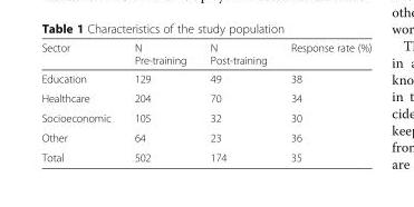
<table><thead><tr><td>Sector</td><td>N Pre-training</td><td>N Post-training</td><td>Response rate (%)</td></tr></thead><tbody><tr><td>Education</td><td>129</td><td>49</td><td>38</td></tr><tr><td>Healthcare</td><td>204</td><td>70</td><td>34</td></tr><tr><td>Socioeconomic</td><td>105</td><td>32</td><td>30</td></tr><tr><td>Other</td><td>64</td><td>23</td><td>36</td></tr><tr><td>Total</td><td>502</td><td>174</td><td>35</td></tr></tbody></table>